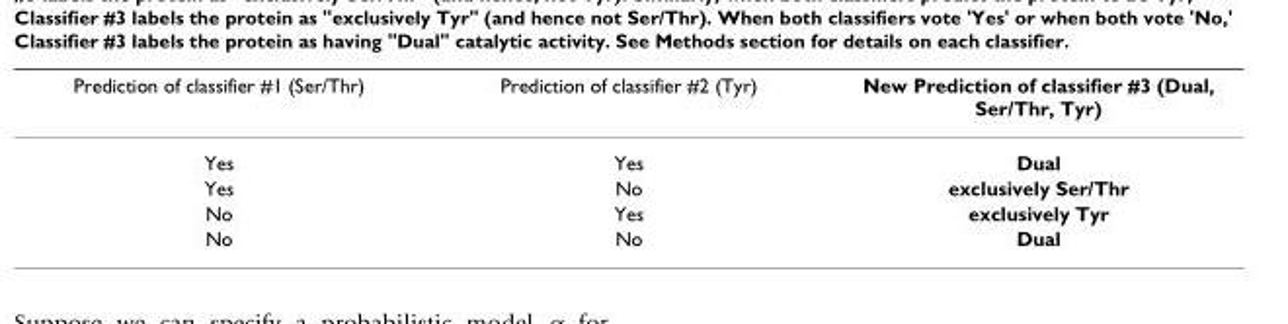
<table><thead><tr><td>Prediction of classifier #1 (Ser/Thr)</td><td>Prediction of classifier #2 (Tyr)</td><td>New Prediction of classifier #3 (Dual, Ser/Thr, Tyr)</td></tr></thead><tbody><tr><td>Yes</td><td>Yes</td><td>Dual</td></tr><tr><td>Yes</td><td>No</td><td>exclusively Ser/Thr</td></tr><tr><td>No</td><td>Yes</td><td>exclusively Tyr</td></tr><tr><td>No</td><td>No</td><td>Dual</td></tr></tbody></table>